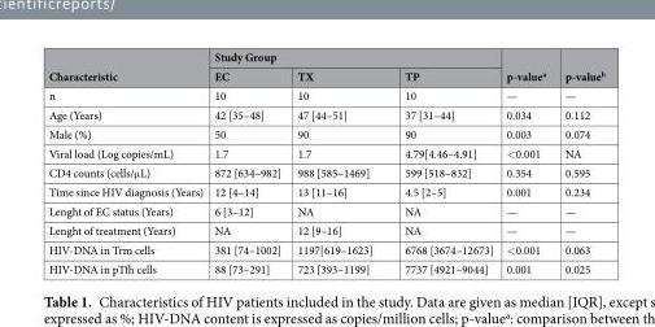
<table><thead><tr><td rowspan="2">Characteristic</td><td colspan="3">Study Group</td><td rowspan="2">p-value<sup>a</sup></td><td rowspan="2">p-value<sup>b</sup></td></tr><tr><td>EC</td><td>TX</td><td>TP</td></tr></thead><tbody><tr><td>n</td><td>10</td><td>10</td><td>10</td><td>—</td><td>—</td></tr><tr><td>Age (Years)</td><td>42 [35–48]</td><td>47 [44–51]</td><td>37 [31–44]</td><td>0.034</td><td>0.112</td></tr><tr><td>Male (%)</td><td>50</td><td>90</td><td>90</td><td>0.003</td><td>0.074</td></tr><tr><td>Viral load (Log copies/mL)</td><td>1.7</td><td>1.7</td><td>4.79[4.46–4.91]</td><td>&lt;0.001</td><td>NA</td></tr><tr><td>CD4 counts (cells/μL)</td><td>872 [634–982]</td><td>988 [585–1469]</td><td>599 [518–832]</td><td>0.354</td><td>0.595</td></tr><tr><td>Time since HIV diagnosis (Years)</td><td>12 [4–14]</td><td>13 [11–16]</td><td>4.5 [2–5]</td><td>0.001</td><td>0.234</td></tr><tr><td>Lenght of EC status (Years)</td><td>6 [3–12]</td><td>NA</td><td>NA</td><td>—</td><td>—</td></tr><tr><td>Lenght of treatment (Years)</td><td>NA</td><td>12 [9–16]</td><td>NA</td><td>—</td><td>—</td></tr><tr><td>HIV-DNA in Trm cells</td><td>381 [74–1002]</td><td>1197[619–1623]</td><td>6768 [3674–12673]</td><td>&lt;0.001</td><td>0.063</td></tr><tr><td>HIV-DNA in pTfh cells</td><td>88 [73–291]</td><td>723 [393–1199]</td><td>7737 [4921–9044]</td><td>0.001</td><td>0.025</td></tr></tbody></table>